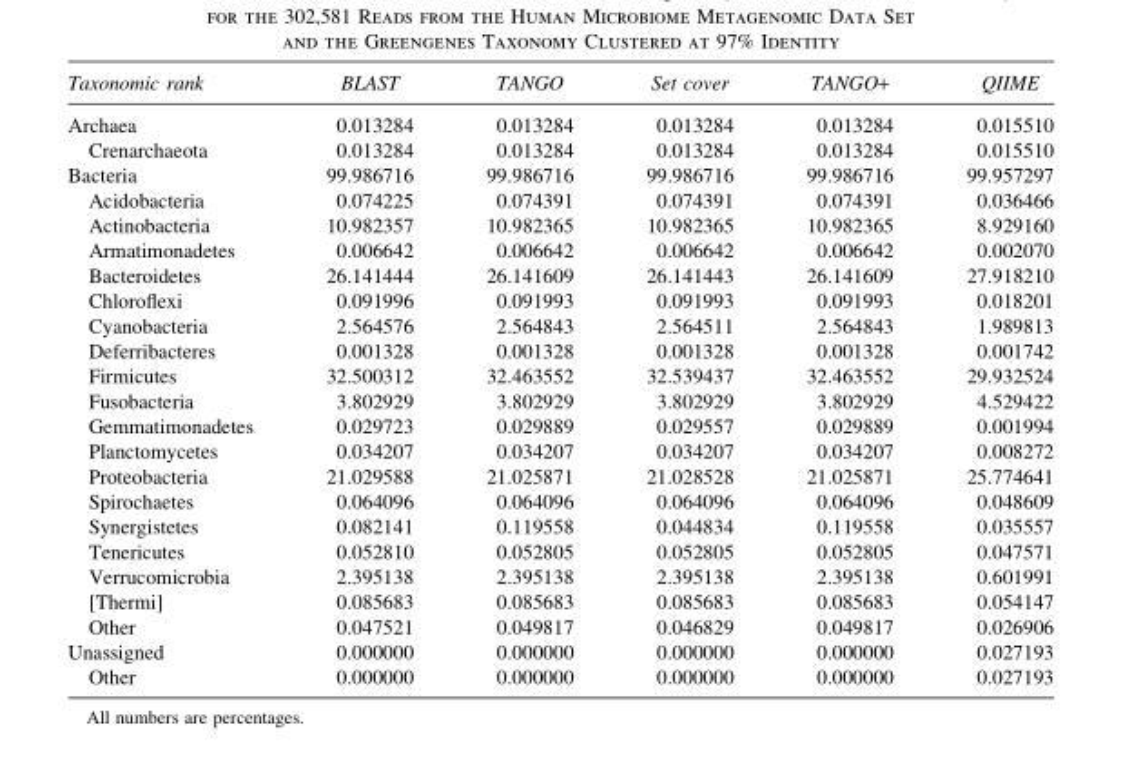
<table><thead><tr><td>Taxonomic rank</td><td>BLAST</td><td>TANGO</td><td>Set cover</td><td>TANGO+</td><td>QIIME</td></tr></thead><tbody><tr><td>Archaea</td><td>0.013284</td><td>0.013284</td><td>0.013284</td><td>0.013284</td><td>0.015510</td></tr><tr><td>Crenarchaeota</td><td>0.013284</td><td>0.013284</td><td>0.013284</td><td>0.013284</td><td>0.015510</td></tr><tr><td>Bacteria</td><td>99.986716</td><td>99.986716</td><td>99.986716</td><td>99.986716</td><td>99.957297</td></tr><tr><td>Acidobacteria</td><td>0.074225</td><td>0.074391</td><td>0.074391</td><td>0.074391</td><td>0.036466</td></tr><tr><td>Actinobacteria</td><td>10.982357</td><td>10.982365</td><td>10.982365</td><td>10.982365</td><td>8.929160</td></tr><tr><td>Armatimonadetes</td><td>0.006642</td><td>0.006642</td><td>0.006642</td><td>0.006642</td><td>0.002070</td></tr><tr><td>Bacteroidetes</td><td>26.141444</td><td>26.141609</td><td>26.141443</td><td>26.141609</td><td>27.918210</td></tr><tr><td>Chloroflexi</td><td>0.091996</td><td>0.091993</td><td>0.091993</td><td>0.091993</td><td>0.018201</td></tr><tr><td>Cyanobacteria</td><td>2.564576</td><td>2.564843</td><td>2.564511</td><td>2.564843</td><td>1.989813</td></tr><tr><td>Deferribacteres</td><td>0.001328</td><td>0.001328</td><td>0.001328</td><td>0.001328</td><td>0.001742</td></tr><tr><td>Firmicutes</td><td>32.500312</td><td>32.463552</td><td>32.539437</td><td>32.463552</td><td>29.932524</td></tr><tr><td>Fusobacteria</td><td>3.802929</td><td>3.802929</td><td>3.802929</td><td>3.802929</td><td>4.529422</td></tr><tr><td>Gemmatimonadetes</td><td>0.029723</td><td>0.029889</td><td>0.029557</td><td>0.029889</td><td>0.001994</td></tr><tr><td>Planctomycetes</td><td>0.034207</td><td>0.034207</td><td>0.034207</td><td>0.034207</td><td>0.008272</td></tr><tr><td>Proteobacteria</td><td>21.029588</td><td>21.025871</td><td>21.028528</td><td>21.025871</td><td>25.774641</td></tr><tr><td>Spirochaetes</td><td>0.064096</td><td>0.064096</td><td>0.064096</td><td>0.064096</td><td>0.048609</td></tr><tr><td>Synergistetes</td><td>0.082141</td><td>0.119558</td><td>0.044834</td><td>0.119558</td><td>0.035557</td></tr><tr><td>Tenericutes</td><td>0.052810</td><td>0.052805</td><td>0.052805</td><td>0.052805</td><td>0.047571</td></tr><tr><td>Verrucomicrobia</td><td>2.395138</td><td>2.395138</td><td>2.395138</td><td>2.395138</td><td>0.601991</td></tr><tr><td>[Thermi]</td><td>0.085683</td><td>0.085683</td><td>0.085683</td><td>0.085683</td><td>0.054147</td></tr><tr><td>Other</td><td>0.047521</td><td>0.049817</td><td>0.046829</td><td>0.049817</td><td>0.026906</td></tr><tr><td>Unassigned</td><td>0.000000</td><td>0.000000</td><td>0.000000</td><td>0.000000</td><td>0.027193</td></tr><tr><td>Other</td><td>0.000000</td><td>0.000000</td><td>0.000000</td><td>0.000000</td><td>0.027193</td></tr></tbody></table>